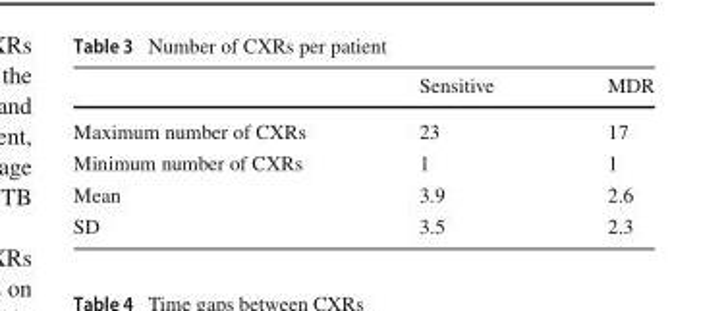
<table><thead><tr><td></td><td>Sensitive</td><td>MDR</td></tr></thead><tbody><tr><td>Maximum number of CXRs</td><td>23</td><td>17</td></tr><tr><td>Minimum number of CXRs</td><td>1</td><td>1</td></tr><tr><td>Mean</td><td>3.9</td><td>2.6</td></tr><tr><td>SD</td><td>3.5</td><td>2.3</td></tr></tbody></table>